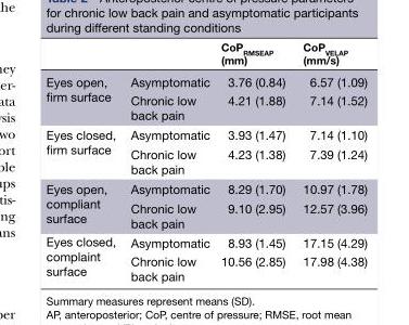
<table><thead><tr><td></td><td></td><td>CoP<sub>RMSEAP</sub> (mm)</td><td>CoP<sub>VELAP</sub> (mm/s)</td></tr></thead><tbody><tr><td rowspan="2">Eyes open, firm surface</td><td>Asymptomatic</td><td>3.76 (0.84)</td><td>6.57 (1.09)</td></tr><tr><td>Chronic low back pain</td><td>4.21 (1.88)</td><td>7.14 (1.52)</td></tr><tr><td rowspan="2">Eyes closed, firm surface</td><td>Asymptomatic</td><td>3.93 (1.47)</td><td>7.14 (1.10)</td></tr><tr><td>Chronic low back pain</td><td>4.23 (1.38)</td><td>7.39 (1.24)</td></tr><tr><td rowspan="2">Eyes open, compliant surface</td><td>Asymptomatic</td><td>8.29 (1.70)</td><td>10.97 (1.78)</td></tr><tr><td>Chronic low back pain</td><td>9.10 (2.95)</td><td>12.57 (3.96)</td></tr><tr><td rowspan="2">Eyes closed, complaint surface</td><td>Asymptomatic</td><td>8.93 (1.45)</td><td>17.15 (4.29)</td></tr><tr><td>Chronic low back pain</td><td>10.56 (2.85)</td><td>17.98 (4.38)</td></tr></tbody></table>